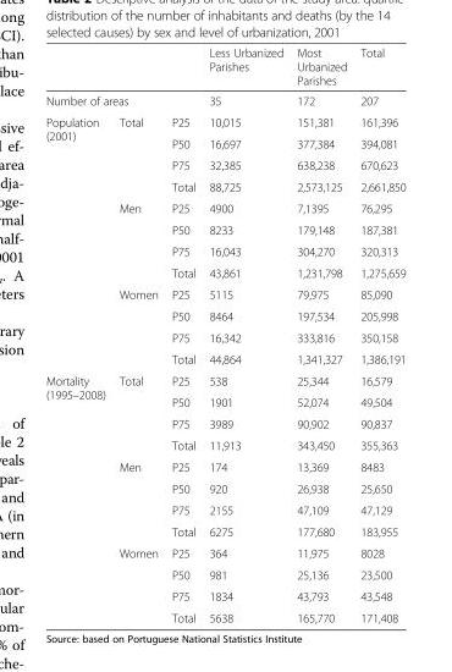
<table><thead><tr><td></td><td></td><td></td><td>Less Urbanized Parishes</td><td>Most Urbanized Parishes</td><td>Total</td></tr></thead><tbody><tr><td colspan="3">Number of areas</td><td>35</td><td>172</td><td>207</td></tr><tr><td rowspan="12">Population (2001)</td><td rowspan="4">Total</td><td>P25</td><td>10,015</td><td>151,381</td><td>161,396</td></tr><tr><td>P50</td><td>16,697</td><td>377,384</td><td>394,081</td></tr><tr><td>P75</td><td>32,385</td><td>638,238</td><td>670,623</td></tr><tr><td>Total</td><td>88,725</td><td>2,573,125</td><td>2,661,850</td></tr><tr><td rowspan="4">Men</td><td>P25</td><td>4900</td><td>7,1395</td><td>76,295</td></tr><tr><td>P50</td><td>8233</td><td>179,148</td><td>187,381</td></tr><tr><td>P75</td><td>16,043</td><td>304,270</td><td>320,313</td></tr><tr><td>Total</td><td>43,861</td><td>1,231,798</td><td>1,275,659</td></tr><tr><td rowspan="4">Women</td><td>P25</td><td>5115</td><td>79,975</td><td>85,090</td></tr><tr><td>P50</td><td>8464</td><td>197,534</td><td>205,998</td></tr><tr><td>P75</td><td>16,342</td><td>333,816</td><td>350,158</td></tr><tr><td>Total</td><td>44,864</td><td>1,341,327</td><td>1,386,191</td></tr><tr><td rowspan="12">Mortality (1995–2008)</td><td rowspan="4">Total</td><td>P25</td><td>538</td><td>25,344</td><td>16,579</td></tr><tr><td>P50</td><td>1901</td><td>52,074</td><td>49,504</td></tr><tr><td>P75</td><td>3989</td><td>90,902</td><td>90,837</td></tr><tr><td>Total</td><td>11,913</td><td>343,450</td><td>355,363</td></tr><tr><td rowspan="4">Men</td><td>P25</td><td>174</td><td>13,369</td><td>8483</td></tr><tr><td>P50</td><td>920</td><td>26,938</td><td>25,650</td></tr><tr><td>P75</td><td>2155</td><td>47,109</td><td>47,129</td></tr><tr><td>Total</td><td>6275</td><td>177,680</td><td>183,955</td></tr><tr><td rowspan="4">Women</td><td>P25</td><td>364</td><td>11,975</td><td>8028</td></tr><tr><td>P50</td><td>981</td><td>25,136</td><td>23,500</td></tr><tr><td>P75</td><td>1834</td><td>43,793</td><td>43,548</td></tr><tr><td>Total</td><td>5638</td><td>165,770</td><td>171,408</td></tr></tbody></table>